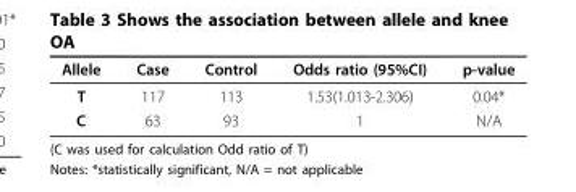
<table><thead><tr><td>Allele</td><td>Case</td><td>Control</td><td>Odds ratio (95%CI)</td><td>p-value</td></tr></thead><tbody><tr><td>T</td><td>117</td><td>113</td><td>1.53(1.013-2.306)</td><td>0.04*</td></tr><tr><td>C</td><td>63</td><td>93</td><td>1</td><td>N/A</td></tr></tbody></table>